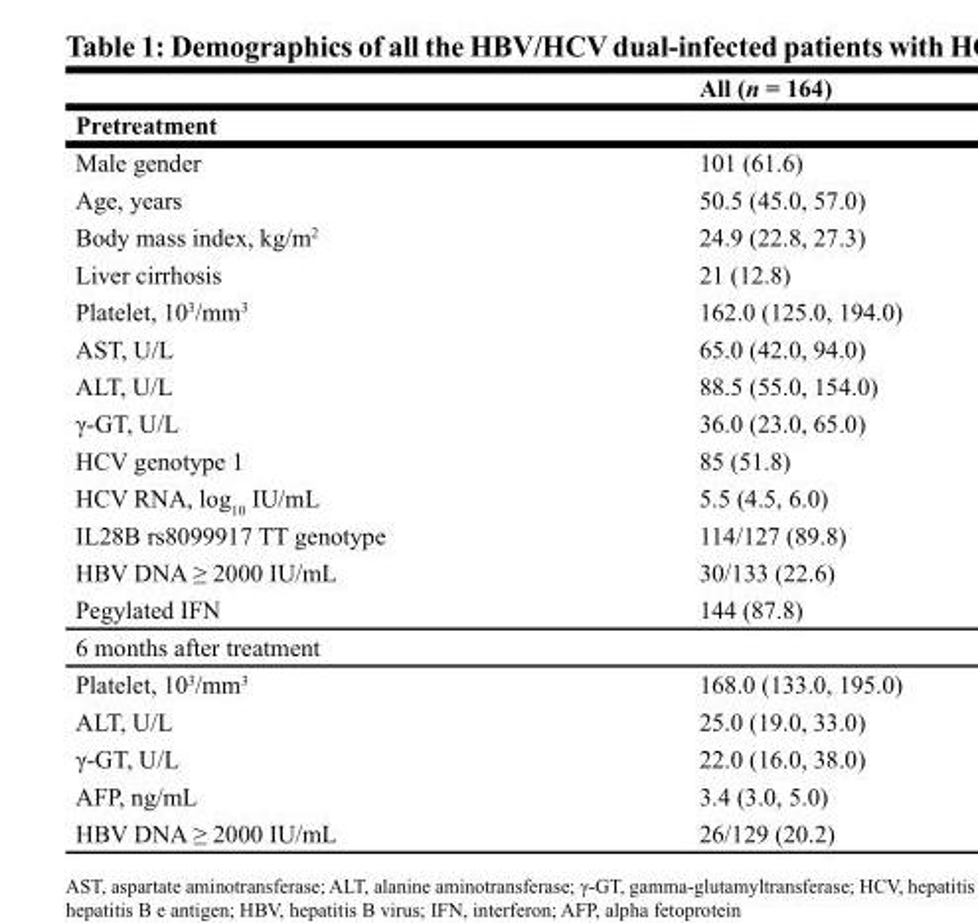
<table><thead><tr><td rowspan="2">Pretreatment</td><td rowspan="2">All (n = 164)</td></tr><tr></tr></thead><tbody><tr><td>Male gender</td><td>101 (61.6)</td></tr><tr><td>Age, years</td><td>50.5 (45.0, 57.0)</td></tr><tr><td>Body mass index, kg/m<sup>2</sup></td><td>24.9 (22.8, 27.3)</td></tr><tr><td>Liver cirrhosis</td><td>21 (12.8)</td></tr><tr><td>Platelet, 10<sup>3</sup>/mm<sup>3</sup></td><td>162.0 (125.0, 194.0)</td></tr><tr><td>AST, U/L</td><td>65.0 (42.0, 94.0)</td></tr><tr><td>ALT, U/L</td><td>88.5 (55.0, 154.0)</td></tr><tr><td>γ-GT, U/L</td><td>36.0 (23.0, 65.0)</td></tr><tr><td>HCV genotype 1</td><td>85 (51.8)</td></tr><tr><td>HCV RNA, log<sub>10</sub> IU/mL</td><td>5.5 (4.5, 6.0)</td></tr><tr><td>IL28B rs8099917 TT genotype</td><td>114/127 (89.8)</td></tr><tr><td>HBV DNA ≥ 2000 IU/mL</td><td>30/133 (22.6)</td></tr><tr><td>Pegylated IFN</td><td>144 (87.8)</td></tr><tr><td colspan="2">6 months after treatment</td></tr><tr><td>Platelet, 10<sup>3</sup>/mm<sup>3</sup></td><td>168.0 (133.0, 195.0)</td></tr><tr><td>ALT, U/L</td><td>25.0 (19.0, 33.0)</td></tr><tr><td>γ-GT, U/L</td><td>22.0 (16.0, 38.0)</td></tr><tr><td>AFP, ng/mL</td><td>3.4 (3.0, 5.0)</td></tr><tr><td>HBV DNA ≥ 2000 IU/mL</td><td>26/129 (20.2)</td></tr></tbody></table>